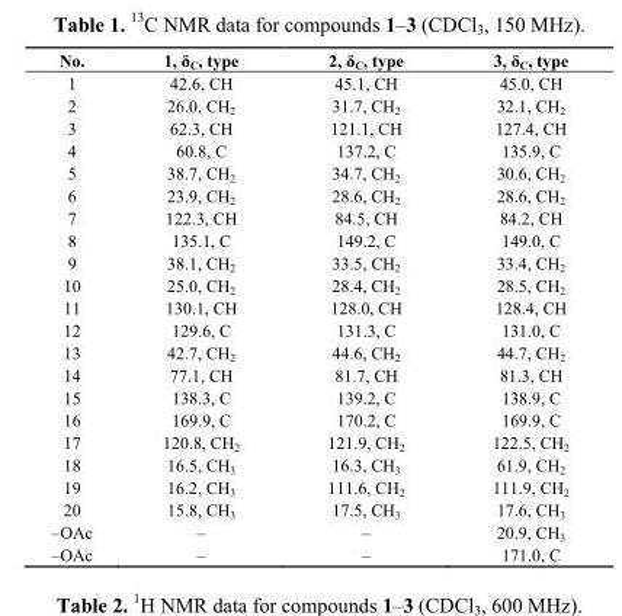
<table><thead><tr><td>No.</td><td>1, δ<sub>C</sub>, type</td><td>2, δ<sub>C</sub>, type</td><td>3, δ<sub>C</sub>, type</td></tr></thead><tbody><tr><td>1</td><td>42.6, CH</td><td>45.1, CH</td><td>45.0, CH</td></tr><tr><td>2</td><td>26.0, CH<sub>2</sub></td><td>31.7, CH<sub>2</sub></td><td>32.1, CH<sub>2</sub></td></tr><tr><td>3</td><td>62.3, CH</td><td>121.1, CH</td><td>127.4, CH</td></tr><tr><td>4</td><td>60.8, C</td><td>137.2, C</td><td>135.9, C</td></tr><tr><td>5</td><td>38.7, CH<sub>2</sub></td><td>34.7, CH<sub>2</sub></td><td>30.6, CH<sub>2</sub></td></tr><tr><td>6</td><td>23.9, CH<sub>2</sub></td><td>28.6, CH<sub>2</sub></td><td>28.6, CH<sub>2</sub></td></tr><tr><td>7</td><td>122.3, CH</td><td>84.5, CH</td><td>84.2, CH</td></tr><tr><td>8</td><td>135.1, C</td><td>149.2, C</td><td>149.0, C</td></tr><tr><td>9</td><td>38.1, CH<sub>2</sub></td><td>33.5, CH<sub>2</sub></td><td>33.4, CH<sub>2</sub></td></tr><tr><td>10</td><td>25.0, CH<sub>2</sub></td><td>28.4, CH<sub>2</sub></td><td>28.5, CH<sub>2</sub></td></tr><tr><td>11</td><td>130.1, CH</td><td>128.0, CH</td><td>128.4, CH</td></tr><tr><td>12</td><td>129.6, C</td><td>131.3, C</td><td>131.0, C</td></tr><tr><td>13</td><td>42.7, CH<sub>2</sub></td><td>44.6, CH<sub>2</sub></td><td>44.7, CH<sub>2</sub></td></tr><tr><td>14</td><td>77.1, CH</td><td>81.7, CH</td><td>81.3, CH</td></tr><tr><td>15</td><td>138.3, C</td><td>139.2, C</td><td>138.9, C</td></tr><tr><td>16</td><td>169.9, C</td><td>170.2, C</td><td>169.9, C</td></tr><tr><td>17</td><td>120.8, CH<sub>2</sub></td><td>121.9, CH<sub>2</sub></td><td>122.5, CH<sub>2</sub></td></tr><tr><td>18</td><td>16.5, CH<sub>3</sub></td><td>16.3, CH<sub>3</sub></td><td>61.9, CH<sub>2</sub></td></tr><tr><td>19</td><td>16.2, CH<sub>3</sub></td><td>111.6, CH<sub>2</sub></td><td>111.9, CH<sub>2</sub></td></tr><tr><td>20</td><td>15.8, CH<sub>3</sub></td><td>17.5, CH<sub>3</sub></td><td>17.6, CH<sub>3</sub></td></tr><tr><td>–OAc</td><td>–</td><td>–</td><td>20.9, CH<sub>3</sub></td></tr><tr><td>–OAc</td><td>–</td><td>–</td><td>171.0, C</td></tr></tbody></table>